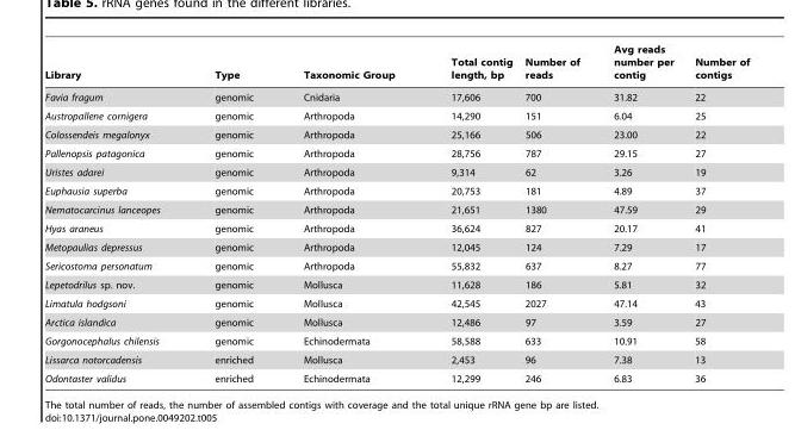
<table><thead><tr><td>Library</td><td>Type</td><td>Taxonomic Group</td><td>Total contig length, bp</td><td>Number of reads</td><td>Avg reads number per contig</td><td>Number of contigs</td></tr></thead><tbody><tr><td>Favia fragum</td><td>genomic</td><td>Cnidaria</td><td>17,606</td><td>700</td><td>31.82</td><td>22</td></tr><tr><td>Austropallene cornigera</td><td>genomic</td><td>Arthropoda</td><td>14,290</td><td>151</td><td>6.04</td><td>25</td></tr><tr><td>Colossendeis megalonyx</td><td>genomic</td><td>Arthropoda</td><td>25,166</td><td>506</td><td>23.00</td><td>22</td></tr><tr><td>Pallenopsis patagonica</td><td>genomic</td><td>Arthropoda</td><td>28,756</td><td>787</td><td>29.15</td><td>27</td></tr><tr><td>Uristes adarei</td><td>genomic</td><td>Arthropoda</td><td>9,314</td><td>62</td><td>3.26</td><td>19</td></tr><tr><td>Euphausia superba</td><td>genomic</td><td>Arthropoda</td><td>20,753</td><td>181</td><td>4.89</td><td>37</td></tr><tr><td>Nematocarcinus lanceopes</td><td>genomic</td><td>Arthropoda</td><td>21,651</td><td>1380</td><td>47.59</td><td>29</td></tr><tr><td>Hyas araneus</td><td>genomic</td><td>Arthropoda</td><td>36,624</td><td>827</td><td>20.17</td><td>41</td></tr><tr><td>Metopaulias depressus</td><td>genomic</td><td>Arthropoda</td><td>12,045</td><td>124</td><td>7.29</td><td>17</td></tr><tr><td>Sericostoma personatum</td><td>genomic</td><td>Arthropoda</td><td>55,832</td><td>637</td><td>8.27</td><td>77</td></tr><tr><td>Lepetodrilus sp. nov.</td><td>genomic</td><td>Mollusca</td><td>11,628</td><td>186</td><td>5.81</td><td>32</td></tr><tr><td>Limatula hodgsoni</td><td>genomic</td><td>Mollusca</td><td>42,545</td><td>2027</td><td>47.14</td><td>43</td></tr><tr><td>Arctica islandica</td><td>genomic</td><td>Mollusca</td><td>12,486</td><td>97</td><td>3.59</td><td>27</td></tr><tr><td>Gorgonocephalus chilensis</td><td>genomic</td><td>Echinodermata</td><td>58,588</td><td>633</td><td>10.91</td><td>58</td></tr><tr><td>Lissarca notorcadensis</td><td>enriched</td><td>Mollusca</td><td>2,453</td><td>96</td><td>7.38</td><td>13</td></tr><tr><td>Odontaster validus</td><td>enriched</td><td>Echinodermata</td><td>12,299</td><td>246</td><td>6.83</td><td>36</td></tr></tbody></table>